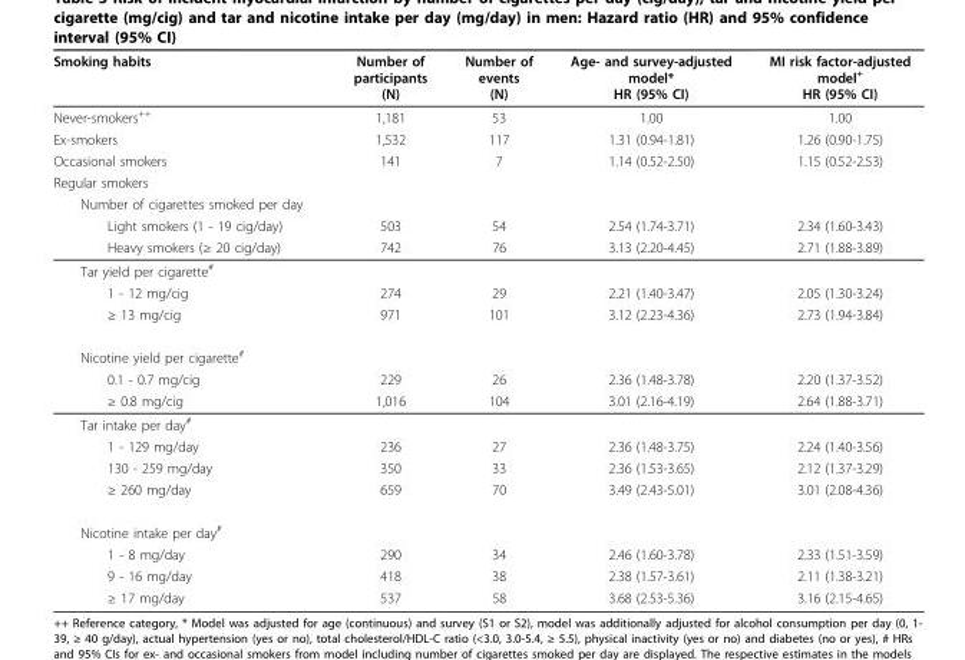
<table><thead><tr><td>Smoking habits</td><td>Number of participants (N)</td><td>Number of events (N)</td><td>Age- and survey-adjusted model* HR (95% CI)</td><td>MI risk factor-adjusted model<sup>+</sup> HR (95% CI)</td></tr></thead><tbody><tr><td>Never-smokers<sup>++</sup></td><td>1,181</td><td>53</td><td>1.00</td><td>1.00</td></tr><tr><td>Ex-smokers</td><td>1,532</td><td>117</td><td>1.31 (0.94-1.81)</td><td>1.26 (0.90-1.75)</td></tr><tr><td>Occasional smokers</td><td>141</td><td>7</td><td>1.14 (0.52-2.50)</td><td>1.15 (0.52-2.53)</td></tr><tr><td colspan="5">Regular smokers</td></tr><tr><td colspan="5">Number of cigarettes smoked per day</td></tr><tr><td>Light smokers (1 - 19 cig/day)</td><td>503</td><td>54</td><td>2.54 (1.74-3.71)</td><td>2.34 (1.60-3.43)</td></tr><tr><td>Heavy smokers (≥ 20 cig/day)</td><td>742</td><td>76</td><td>3.13 (2.20-4.45)</td><td>2.71 (1.88-3.89)</td></tr><tr><td colspan="5">Tar yield per cigarette<sup>#</sup></td></tr><tr><td>1 - 12 mg/cig</td><td>274</td><td>29</td><td>2.21 (1.40-3.47)</td><td>2.05 (1.30-3.24)</td></tr><tr><td>≥ 13 mg/cig</td><td>971</td><td>101</td><td>3.12 (2.23-4.36)</td><td>2.73 (1.94-3.84)</td></tr><tr><td colspan="5">Nicotine yield per cigarette<sup>#</sup></td></tr><tr><td>0.1 - 0.7 mg/cig</td><td>229</td><td>26</td><td>2.36 (1.48-3.78)</td><td>2.20 (1.37-3.52)</td></tr><tr><td>≥ 0.8 mg/cig</td><td>1,016</td><td>104</td><td>3.01 (2.16-4.19)</td><td>2.64 (1.88-3.71)</td></tr><tr><td colspan="5">Tar intake per day<sup>#</sup></td></tr><tr><td>1 - 129 mg/day</td><td>236</td><td>27</td><td>2.36 (1.48-3.75)</td><td>2.24 (1.40-3.56)</td></tr><tr><td>130 - 259 mg/day</td><td>350</td><td>33</td><td>2.36 (1.53-3.65)</td><td>2.12 (1.37-3.29)</td></tr><tr><td>≥ 260 mg/day</td><td>659</td><td>70</td><td>3.49 (2.43-5.01)</td><td>3.01 (2.08-4.36)</td></tr><tr><td colspan="5">Nicotine intake per day<sup>#</sup></td></tr><tr><td>1 - 8 mg/day</td><td>290</td><td>34</td><td>2.46 (1.60-3.78)</td><td>2.33 (1.51-3.59)</td></tr><tr><td>9 - 16 mg/day</td><td>418</td><td>38</td><td>2.38 (1.57-3.61)</td><td>2.11 (1.38-3.21)</td></tr><tr><td>≥ 17 mg/day</td><td>537</td><td>58</td><td>3.68 (2.53-5.36)</td><td>3.16 (2.15-4.65)</td></tr></tbody></table>